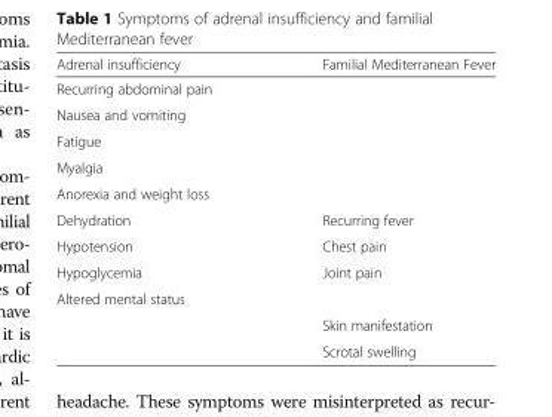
<table><thead><tr><td>Adrenal insufficiency</td><td>Familial Mediterranean Fever</td></tr></thead><tbody><tr><td colspan="2">Recurring abdominal pain</td></tr><tr><td colspan="2">Nausea and vomiting</td></tr><tr><td colspan="2">Fatigue</td></tr><tr><td colspan="2">Myalgia</td></tr><tr><td colspan="2">Anorexia and weight loss</td></tr><tr><td>Dehydration</td><td>Recurring fever</td></tr><tr><td>Hypotension</td><td>Chest pain</td></tr><tr><td>Hypoglycemia</td><td>Joint pain</td></tr><tr><td colspan="2">Altered mental status</td></tr><tr><td></td><td>Skin manifestation</td></tr><tr><td></td><td>Scrotal swelling</td></tr></tbody></table>